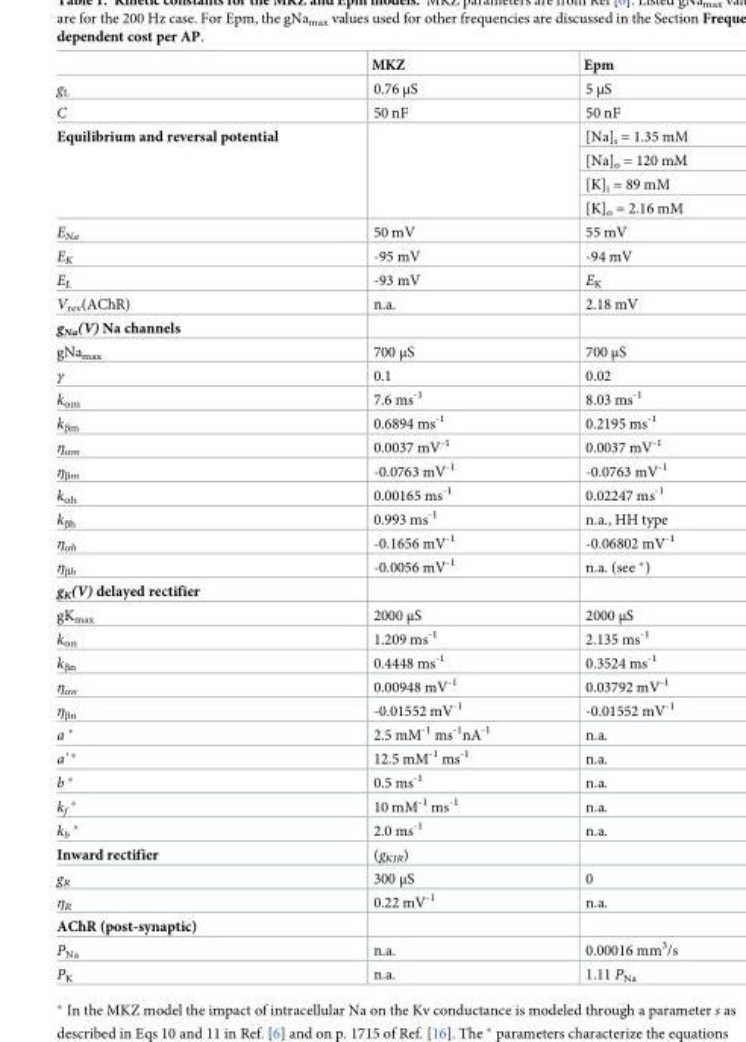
<table><thead><tr><td></td><td>MKZ</td><td>Epm</td></tr></thead><tbody><tr><td>g<sub>L</sub></td><td>0.76 μS</td><td>5 μS</td></tr><tr><td>C</td><td>50 nF</td><td>50 nF</td></tr><tr><td rowspan="4">Equilibrium and reversal potential</td><td rowspan="4"></td><td>[Na]<sub>i</sub> = 1.35 mM</td></tr><tr><td>[Na]<sub>o</sub> = 120 mM</td></tr><tr><td>[K]<sub>i</sub> = 89 mM</td></tr><tr><td>[K]<sub>o</sub> = 2.16 mM</td></tr><tr><td>E<sub>Na</sub></td><td>50 mV</td><td>55 mV</td></tr><tr><td>E<sub>K</sub></td><td>-95 mV</td><td>-94 mV</td></tr><tr><td>E<sub>L</sub></td><td>-93 mV</td><td>E<sub>K</sub></td></tr><tr><td>V<sub>rev</sub>(AChR)</td><td>n.a.</td><td>2.18 mV</td></tr><tr><td colspan="3">g<sub>Na</sub>(V) Na channels</td></tr><tr><td>gNa<sub>max</sub></td><td>700 μS</td><td>700 μS</td></tr><tr><td>γ</td><td>0.1</td><td>0.02</td></tr><tr><td>k<sub>αm</sub></td><td>7.6 ms<sup>-1</sup></td><td>8.03 ms<sup>-1</sup></td></tr><tr><td>k<sub>βm</sub></td><td>0.6894 ms<sup>-1</sup></td><td>0.2195 ms<sup>-1</sup></td></tr><tr><td>η<sub>αm</sub></td><td>0.0037 mV<sup>-1</sup></td><td>0.0037 mV<sup>-1</sup></td></tr><tr><td>η<sub>βm</sub></td><td>-0.0763 mV<sup>-1</sup></td><td>-0.0763 mV<sup>-1</sup></td></tr><tr><td>k<sub>αh</sub></td><td>0.00165 ms<sup>-1</sup></td><td>0.02247 ms<sup>-1</sup></td></tr><tr><td>k<sub>βh</sub></td><td>0.993 ms<sup>-1</sup></td><td>n.a., HH type</td></tr><tr><td>η<sub>αh</sub></td><td>-0.1656 mV<sup>-1</sup></td><td>-0.06802 mV<sup>-1</sup></td></tr><tr><td>η<sub>βh</sub></td><td>-0.0056 mV<sup>-1</sup></td><td>n.a. (see *)</td></tr><tr><td colspan="3">g<sub>K</sub>(V) delayed rectifier</td></tr><tr><td>gK<sub>max</sub></td><td>2000 μS</td><td>2000 μS</td></tr><tr><td>k<sub>αn</sub></td><td>1.209 ms<sup>-1</sup></td><td>2.135 ms<sup>-1</sup></td></tr><tr><td>k<sub>βn</sub></td><td>0.4448 ms<sup>-1</sup></td><td>0.3524 ms<sup>-1</sup></td></tr><tr><td>η<sub>αn</sub></td><td>0.00948 mV<sup>-1</sup></td><td>0.03792 mV<sup>-1</sup></td></tr><tr><td>η<sub>βn</sub></td><td>-0.01552 mV<sup>-1</sup></td><td>-0.01552 mV<sup>-1</sup></td></tr><tr><td>a *</td><td>2.5 mM<sup>-1</sup> ms<sup>-1</sup>nA<sup>-1</sup></td><td>n.a.</td></tr><tr><td>a&#x27; *</td><td>12.5 mM<sup>-1</sup> ms<sup>-1</sup></td><td>n.a.</td></tr><tr><td>b *</td><td>0.5 ms<sup>-1</sup></td><td>n.a.</td></tr><tr><td>k<sub>f</sub> *</td><td>10 mM<sup>-1</sup> ms<sup>-1</sup></td><td>n.a.</td></tr><tr><td>k<sub>b</sub> *</td><td>2.0 ms<sup>-1</sup></td><td>n.a.</td></tr><tr><td>Inward rectifier</td><td>(g<sub>KIR</sub>)</td><td></td></tr><tr><td>g<sub>R</sub></td><td>300 μS</td><td>0</td></tr><tr><td>η<sub>R</sub></td><td>0.22 mV<sup>-1</sup></td><td>n.a.</td></tr><tr><td colspan="3">AChR (post-synaptic)</td></tr><tr><td>P<sub>Na</sub></td><td>n.a.</td><td>0.00016 mm<sup>3</sup>/s</td></tr><tr><td>P<sub>K</sub></td><td>n.a.</td><td>1.11 P<sub>Na</sub></td></tr></tbody></table>